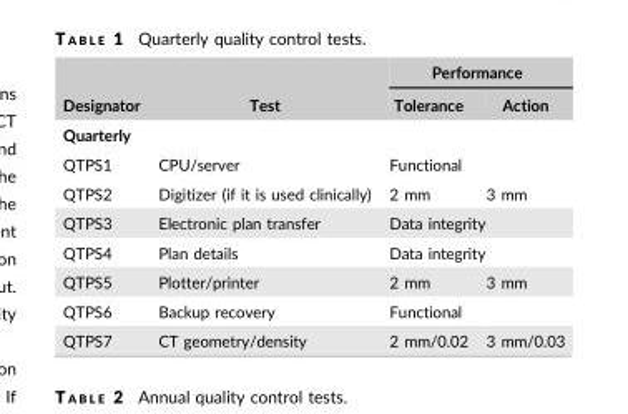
<table><thead><tr><td rowspan="2">Designator</td><td rowspan="2">Test</td><td colspan="2">Performance</td></tr><tr><td>Tolerance</td><td>Action</td></tr></thead><tbody><tr><td colspan="4">Quarterly</td></tr><tr><td>QTPS1</td><td>CPU/server</td><td colspan="2">Functional</td></tr><tr><td>QTPS2</td><td>Digitizer (if it is used clinically)</td><td>2 mm</td><td>3 mm</td></tr><tr><td>QTPS3</td><td>Electronic plan transfer</td><td colspan="2">Data integrity</td></tr><tr><td>QTPS4</td><td>Plan details</td><td colspan="2">Data integrity</td></tr><tr><td>QTPS5</td><td>Plotter/printer</td><td>2 mm</td><td>3 mm</td></tr><tr><td>QTPS6</td><td>Backup recovery</td><td colspan="2">Functional</td></tr><tr><td>QTPS7</td><td>CT geometry/density</td><td>2 mm/0.02</td><td>3 mm/0.03</td></tr></tbody></table>